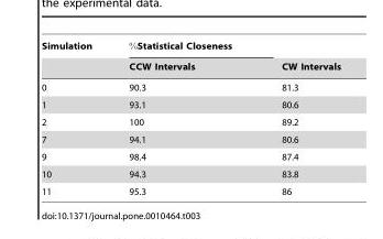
<table><thead><tr><td rowspan="2">Simulation</td><td rowspan="2">%Statistical Closeness CCW Intervals</td><td rowspan="2">CW Intervals</td></tr><tr></tr></thead><tbody><tr><td>0</td><td>90.3</td><td>81.3</td></tr><tr><td>1</td><td>93.1</td><td>80.6</td></tr><tr><td>2</td><td>100</td><td>89.2</td></tr><tr><td>7</td><td>94.1</td><td>80.6</td></tr><tr><td>9</td><td>98.4</td><td>87.4</td></tr><tr><td>10</td><td>94.3</td><td>83.8</td></tr><tr><td>11</td><td>95.3</td><td>86</td></tr></tbody></table>